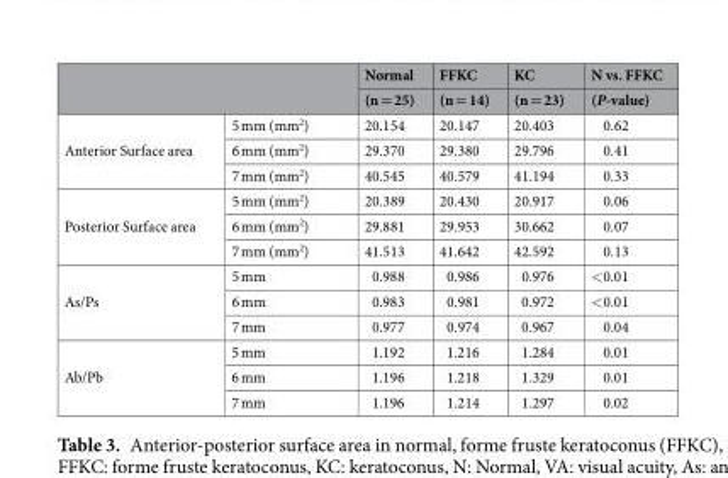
<table><thead><tr><td rowspan="2"></td><td rowspan="2"></td><td rowspan="2">Normal (n = 25)</td><td rowspan="2">FFKC (n = 14)</td><td rowspan="2">KC (n = 23)</td><td rowspan="2">N vs. FFKC (P-value)</td></tr><tr></tr></thead><tbody><tr><td rowspan="3">Anterior Surface area</td><td>5 mm (mm<sup>2</sup>)</td><td>20.154</td><td>20.147</td><td>20.403</td><td>0.62</td></tr><tr><td>6 mm (mm<sup>2</sup>)</td><td>29.370</td><td>29.380</td><td>29.796</td><td>0.41</td></tr><tr><td>7 mm (mm<sup>2</sup>)</td><td>40.545</td><td>40.579</td><td>41.194</td><td>0.33</td></tr><tr><td rowspan="3">Posterior Surface area</td><td>5 mm (mm<sup>2</sup>)</td><td>20.389</td><td>20.430</td><td>20.917</td><td>0.06</td></tr><tr><td>6 mm (mm<sup>2</sup>)</td><td>29.881</td><td>29.953</td><td>30.662</td><td>0.07</td></tr><tr><td>7 mm (mm<sup>2</sup>)</td><td>41.513</td><td>41.642</td><td>42.592</td><td>0.13</td></tr><tr><td rowspan="3">As/Ps</td><td>5 mm</td><td>0.988</td><td>0.986</td><td>0.976</td><td>&lt;0.01</td></tr><tr><td>6 mm</td><td>0.983</td><td>0.981</td><td>0.972</td><td>&lt;0.01</td></tr><tr><td>7 mm</td><td>0.977</td><td>0.974</td><td>0.967</td><td>0.04</td></tr><tr><td rowspan="3">Ab/Pb</td><td>5 mm</td><td>1.192</td><td>1.216</td><td>1.284</td><td>0.01</td></tr><tr><td>6 mm</td><td>1.196</td><td>1.218</td><td>1.329</td><td>0.01</td></tr><tr><td>7 mm</td><td>1.196</td><td>1.214</td><td>1.297</td><td>0.02</td></tr></tbody></table>